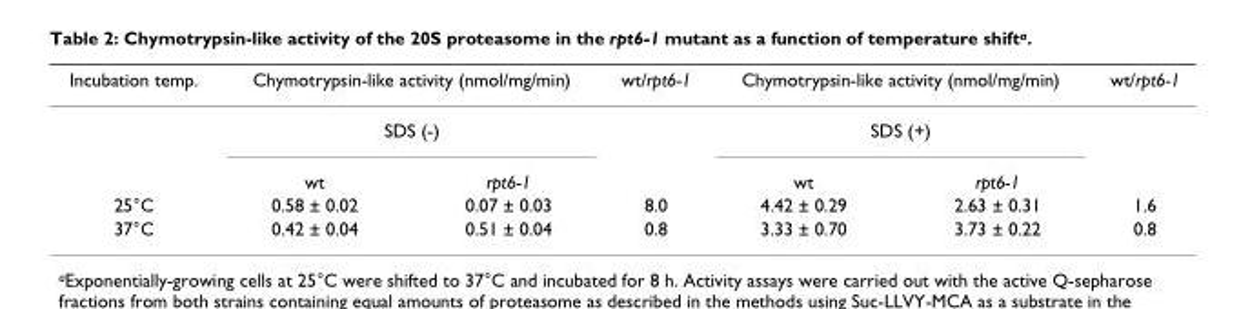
<table><thead><tr><td rowspan="3">Incubation temp.</td><td rowspan="2" colspan="2">Chymotrypsin-like activity (nmol/mg/min) SDS (-)</td><td rowspan="3">wt/rpt6-1</td><td rowspan="2" colspan="2">Chymotrypsin-like activity (nmol/mg/min) SDS (+)</td><td rowspan="3">wt/rpt6-1</td></tr><tr></tr><tr><td>wt</td><td>rpt6-1</td><td>wt</td><td>rpt6-1</td></tr></thead><tbody><tr><td>25°C</td><td>0.58 ± 0.02</td><td>0.07 ± 0.03</td><td>8.0</td><td>4.42 ± 0.29</td><td>2.63 ± 0.31</td><td>1.6</td></tr><tr><td>37°C</td><td>0.42 ± 0.04</td><td>0.51 ± 0.04</td><td>0.8</td><td>3.33 ± 0.70</td><td>3.73 ± 0.22</td><td>0.8</td></tr></tbody></table>